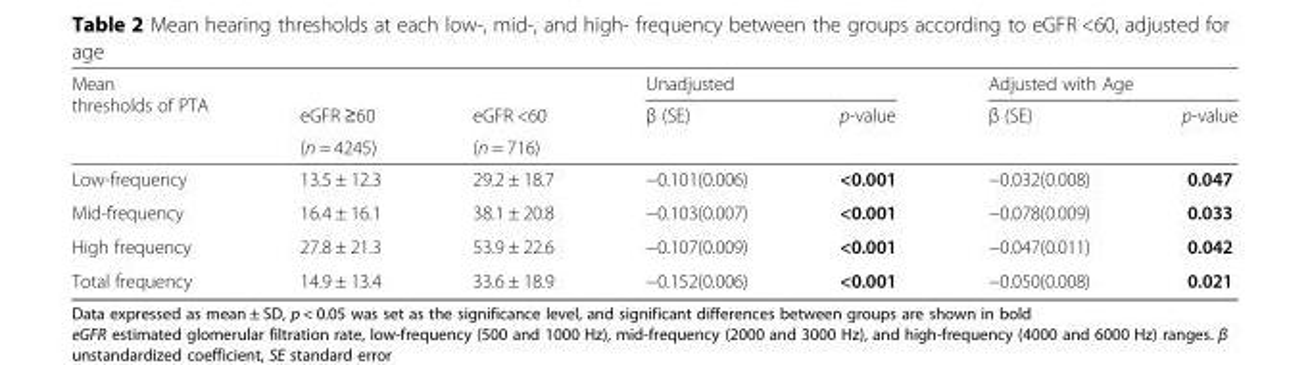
<table><thead><tr><td rowspan="3">Mean thresholds of PTA</td><td rowspan="3">eGFR ≥60 (n = 4245)</td><td rowspan="3">eGFR &lt;60 (n = 716)</td><td colspan="2">Unadjusted</td><td colspan="2">Adjusted with Age</td></tr><tr><td rowspan="2">β (SE)</td><td rowspan="2">p-value</td><td rowspan="2">β (SE)</td><td rowspan="2">p-value</td></tr><tr></tr></thead><tbody><tr><td>Low-frequency</td><td>13.5 ± 12.3</td><td>29.2 ± 18.7</td><td>−0.101(0.006)</td><td>&lt;0.001</td><td>−0.032(0.008)</td><td>0.047</td></tr><tr><td>Mid-frequency</td><td>16.4 ± 16.1</td><td>38.1 ± 20.8</td><td>−0.103(0.007)</td><td>&lt;0.001</td><td>−0.078(0.009)</td><td>0.033</td></tr><tr><td>High frequency</td><td>27.8 ± 21.3</td><td>53.9 ± 22.6</td><td>−0.107(0.009)</td><td>&lt;0.001</td><td>−0.047(0.011)</td><td>0.042</td></tr><tr><td>Total frequency</td><td>14.9 ± 13.4</td><td>33.6 ± 18.9</td><td>−0.152(0.006)</td><td>&lt;0.001</td><td>−0.050(0.008)</td><td>0.021</td></tr></tbody></table>